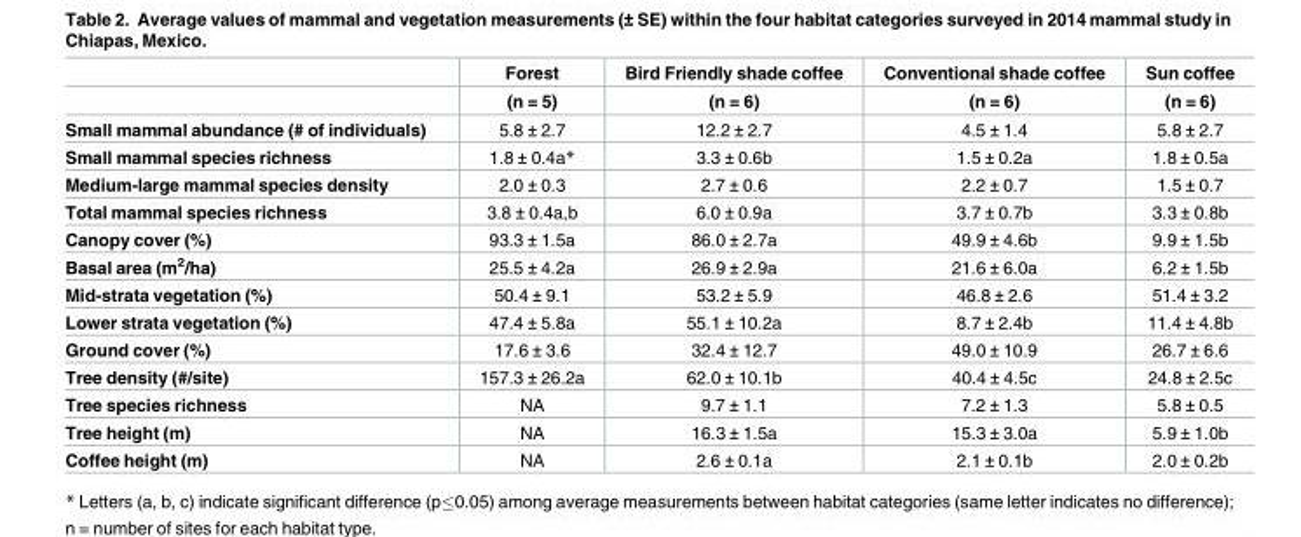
<table><thead><tr><td rowspan="2"></td><td rowspan="2">Forest (n = 5)</td><td rowspan="2">Bird Friendly shade coffee (n = 6)</td><td rowspan="2">Conventional shade coffee (n = 6)</td><td rowspan="2">Sun coffee (n = 6)</td></tr><tr></tr></thead><tbody><tr><td>Small mammal abundance (# of individuals)</td><td>5.8 ± 2.7</td><td>12.2 ± 2.7</td><td>4.5 ± 1.4</td><td>5.8 ± 2.7</td></tr><tr><td>Small mammal species richness</td><td>1.8 ± 0.4a*</td><td>3.3 ± 0.6b</td><td>1.5 ± 0.2a</td><td>1.8 ± 0.5a</td></tr><tr><td>Medium-large mammal species density</td><td>2.0 ± 0.3</td><td>2.7 ± 0.6</td><td>2.2 ± 0.7</td><td>1.5 ± 0.7</td></tr><tr><td>Total mammal species richness</td><td>3.8 ± 0.4a,b</td><td>6.0 ± 0.9a</td><td>3.7 ± 0.7b</td><td>3.3 ± 0.8b</td></tr><tr><td>Canopy cover (%)</td><td>93.3 ± 1.5a</td><td>86.0 ± 2.7a</td><td>49.9 ± 4.6b</td><td>9.9 ± 1.5b</td></tr><tr><td>Basal area (m<sup>2</sup>/ha)</td><td>25.5 ± 4.2a</td><td>26.9 ± 2.9a</td><td>21.6 ± 6.0a</td><td>6.2 ± 1.5b</td></tr><tr><td>Mid-strata vegetation (%)</td><td>50.4 ± 9.1</td><td>53.2 ± 5.9</td><td>46.8 ± 2.6</td><td>51.4 ± 3.2</td></tr><tr><td>Lower strata vegetation (%)</td><td>47.4 ± 5.8a</td><td>55.1 ± 10.2a</td><td>8.7 ± 2.4b</td><td>11.4 ± 4.8b</td></tr><tr><td>Ground cover (%)</td><td>17.6 ± 3.6</td><td>32.4 ± 12.7</td><td>49.0 ± 10.9</td><td>26.7 ± 6.6</td></tr><tr><td>Tree density (#/site)</td><td>157.3 ± 26.2a</td><td>62.0 ± 10.1b</td><td>40.4 ± 4.5c</td><td>24.8 ± 2.5c</td></tr><tr><td>Tree species richness</td><td>NA</td><td>9.7 ± 1.1</td><td>7.2 ± 1.3</td><td>5.8 ± 0.5</td></tr><tr><td>Tree height (m)</td><td>NA</td><td>16.3 ± 1.5a</td><td>15.3 ± 3.0a</td><td>5.9 ± 1.0b</td></tr><tr><td>Coffee height (m)</td><td>NA</td><td>2.6 ± 0.1a</td><td>2.1 ± 0.1b</td><td>2.0 ± 0.2b</td></tr></tbody></table>